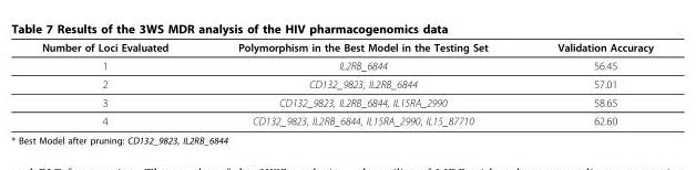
<table><thead><tr><td>Number of Loci Evaluated</td><td>Polymorphism in the Best Model in the Testing Set</td><td>Validation Accuracy</td></tr></thead><tbody><tr><td>1</td><td>IL2RB_6844</td><td>56.45</td></tr><tr><td>2</td><td>CD132_9823, IL2RB_6844</td><td>57.01</td></tr><tr><td>3</td><td>CD132_9823, IL2RB_6844, IL15RA_2990</td><td>58.65</td></tr><tr><td>4</td><td>CD132_9823, IL2RB_6844, IL15RA_2990, IL15_87710</td><td>62.60</td></tr></tbody></table>